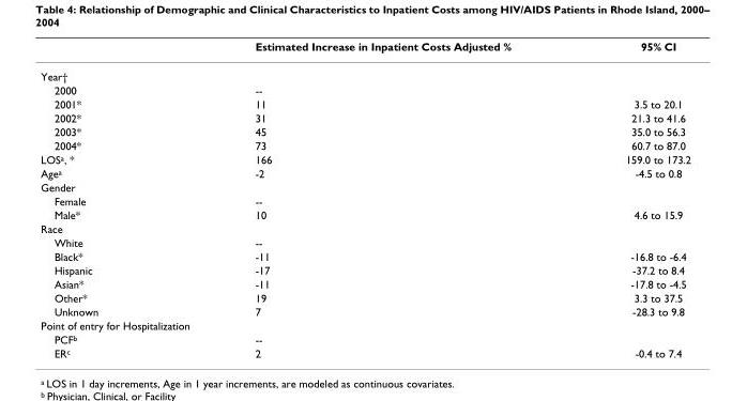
<table><thead><tr><td></td><td>Estimated Increase in Inpatient Costs Adjusted %</td><td>95% CI</td></tr></thead><tbody><tr><td colspan="3">Year†</td></tr><tr><td>2000</td><td>--</td><td></td></tr><tr><td>2001*</td><td>11</td><td>3.5 to 20.1</td></tr><tr><td>2002*</td><td>31</td><td>21.3 to 41.6</td></tr><tr><td>2003*</td><td>45</td><td>35.0 to 56.3</td></tr><tr><td>2004*</td><td>73</td><td>60.7 to 87.0</td></tr><tr><td>LOS<sup>a</sup>, *</td><td>166</td><td>159.0 to 173.2</td></tr><tr><td>Age<sup>a</sup></td><td>-2</td><td>-4.5 to 0.8</td></tr><tr><td colspan="3">Gender</td></tr><tr><td>Female</td><td>--</td><td></td></tr><tr><td>Male*</td><td>10</td><td>4.6 to 15.9</td></tr><tr><td colspan="3">Race</td></tr><tr><td>White</td><td>--</td><td></td></tr><tr><td>Black*</td><td>-11</td><td>-16.8 to -6.4</td></tr><tr><td>Hispanic</td><td>-17</td><td>-37.2 to 8.4</td></tr><tr><td>Asian*</td><td>-11</td><td>-17.8 to -4.5</td></tr><tr><td>Other*</td><td>19</td><td>3.3 to 37.5</td></tr><tr><td>Unknown</td><td>7</td><td>-28.3 to 9.8</td></tr><tr><td colspan="3">Point of entry for Hospitalization</td></tr><tr><td>PCF<sup>b</sup></td><td>--</td><td></td></tr><tr><td>ER<sup>c</sup></td><td>2</td><td>-0.4 to 7.4</td></tr></tbody></table>